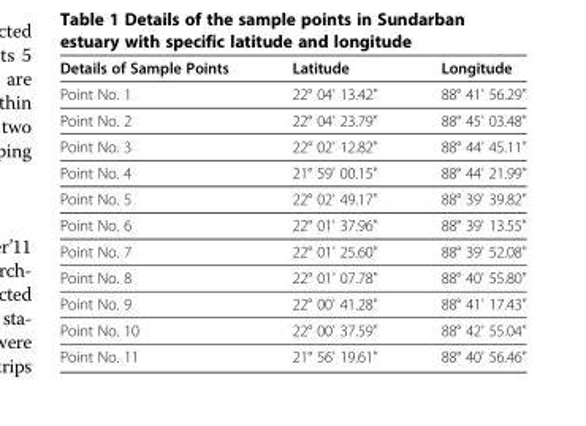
<table><thead><tr><td>Details of Sample Points</td><td>Latitude</td><td>Longitude</td></tr></thead><tbody><tr><td>Point No. 1</td><td>22° 04&#x27; 13.42&quot;</td><td>88° 41&#x27; 56.29&quot;</td></tr><tr><td>Point No. 2</td><td>22° 04&#x27; 23.79&quot;</td><td>88° 45&#x27; 03.48&quot;</td></tr><tr><td>Point No. 3</td><td>22° 02&#x27; 12.82&quot;</td><td>88° 44&#x27; 45.11&quot;</td></tr><tr><td>Point No. 4</td><td>21° 59&#x27; 00.15&quot;</td><td>88° 44&#x27; 21.99&quot;</td></tr><tr><td>Point No. 5</td><td>22° 02&#x27; 49.17&quot;</td><td>88° 39&#x27; 39.82&quot;</td></tr><tr><td>Point No. 6</td><td>22° 01&#x27; 37.96&quot;</td><td>88° 39&#x27; 13.55&quot;</td></tr><tr><td>Point No. 7</td><td>22° 01&#x27; 25.60&quot;</td><td>88° 39&#x27; 52.08&quot;</td></tr><tr><td>Point No. 8</td><td>22° 01&#x27; 07.78&quot;</td><td>88° 40&#x27; 55.80&quot;</td></tr><tr><td>Point No. 9</td><td>22° 00&#x27; 41.28&quot;</td><td>88° 41&#x27; 17.43&quot;</td></tr><tr><td>Point No. 10</td><td>22° 00&#x27; 37.59&quot;</td><td>88° 42&#x27; 55.04&quot;</td></tr><tr><td>Point No. 11</td><td>21° 56&#x27; 19.61&quot;</td><td>88° 40&#x27; 56.46&quot;</td></tr></tbody></table>